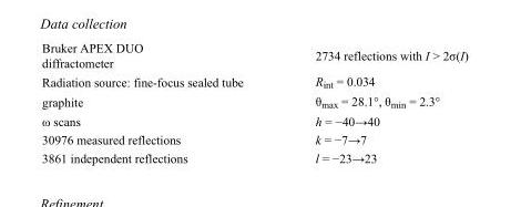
<table><tbody><tr><td>Bruker APEX DUO diffractometer</td><td>2734 reflections with I &gt; 2σ(I)</td></tr><tr><td>Radiation source: fine-focus sealed tube</td><td>R<sub>int</sub> = 0.034</td></tr><tr><td>graphite</td><td>θ<sub>max</sub> = 28.1°, θ<sub>min</sub> = 2.3°</td></tr><tr><td>ω scans</td><td>h = −40→40</td></tr><tr><td>30976 measured reflections</td><td>k = −7→7</td></tr><tr><td>3861 independent reflections</td><td>l = −23→23</td></tr></tbody></table>